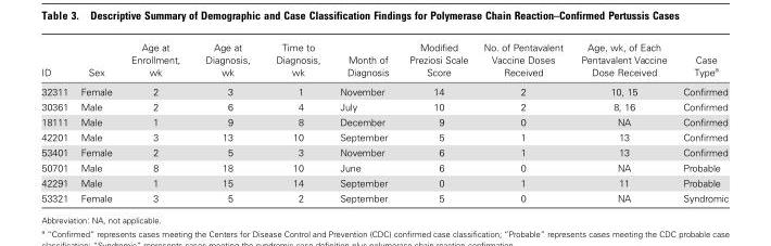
<table><thead><tr><td>ID</td><td>Sex</td><td>Age at Enrollment, wk</td><td>Age at Diagnosis, wk</td><td>Time to Diagnosis, wk</td><td>Month of Diagnosis</td><td>Modified Preziosi Scale Score</td><td>No. of Pentavalent Vaccine Doses Received</td><td>Age, wk, of Each Pentavalent Vaccine Dose Received</td><td>Case Type<sup>a</sup></td></tr></thead><tbody><tr><td>32311</td><td>Female</td><td>2</td><td>3</td><td>1</td><td>November</td><td>14</td><td>2</td><td>10, 15</td><td>Confirmed</td></tr><tr><td>30361</td><td>Male</td><td>2</td><td>6</td><td>4</td><td>July</td><td>10</td><td>2</td><td>8, 16</td><td>Confirmed</td></tr><tr><td>18111</td><td>Male</td><td>1</td><td>9</td><td>8</td><td>December</td><td>9</td><td>0</td><td>NA</td><td>Confirmed</td></tr><tr><td>42201</td><td>Male</td><td>3</td><td>13</td><td>10</td><td>September</td><td>5</td><td>1</td><td>13</td><td>Confirmed</td></tr><tr><td>53401</td><td>Female</td><td>2</td><td>5</td><td>3</td><td>November</td><td>6</td><td>1</td><td>13</td><td>Confirmed</td></tr><tr><td>50701</td><td>Male</td><td>8</td><td>18</td><td>10</td><td>June</td><td>6</td><td>0</td><td>NA</td><td>Probable</td></tr><tr><td>42291</td><td>Male</td><td>1</td><td>15</td><td>14</td><td>September</td><td>0</td><td>1</td><td>11</td><td>Probable</td></tr><tr><td>53321</td><td>Female</td><td>3</td><td>5</td><td>2</td><td>September</td><td>5</td><td>0</td><td>NA</td><td>Syndromic</td></tr></tbody></table>